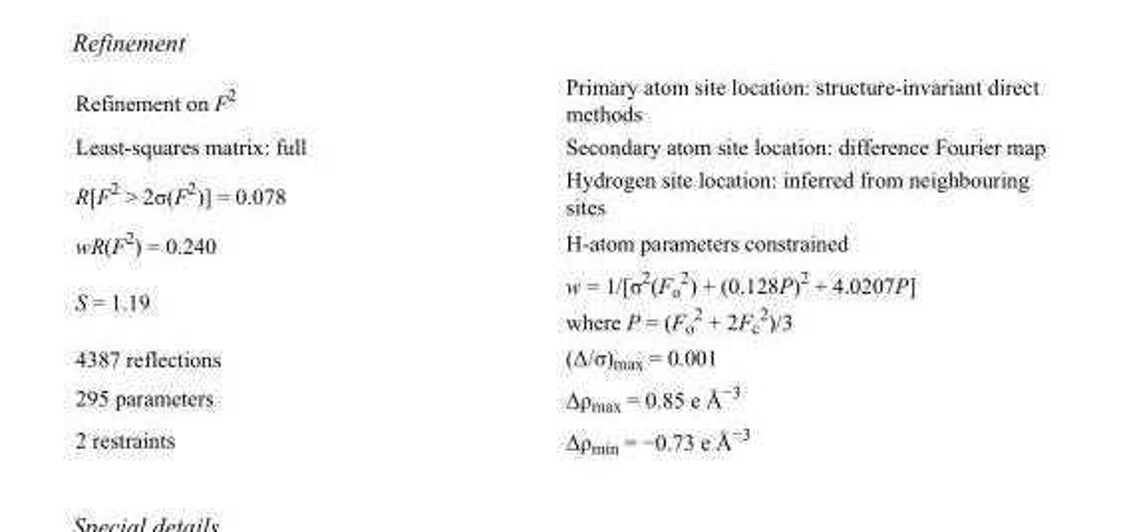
<table><tbody><tr><td>Refinement on F<sup>2</sup></td><td>Primary atom site location: structure-invariant direct methods</td></tr><tr><td>Least-squares matrix: full</td><td>Secondary atom site location: difference Fourier map</td></tr><tr><td>R[F<sup>2</sup> &gt; 2σ(F<sup>2</sup>)] = 0.078</td><td>Hydrogen site location: inferred from neighbouring sites</td></tr><tr><td>wR(F<sup>2</sup>) = 0.240</td><td>H-atom parameters constrained</td></tr><tr><td>S = 1.19</td><td>w = 1/[σ<sup>2</sup>(F<sub>o</sub> <sup>2</sup>) + (0.128P)<sup>2</sup> + 4.0207P] where P = (F<sub>o</sub> <sup>2</sup> + 2F<sub>c</sub> <sup>2</sup>)/3</td></tr><tr><td>4387 reflections</td><td>(Δ/σ)<sub>max</sub> = 0.001</td></tr><tr><td>295 parameters</td><td>Δρ<sub>max</sub> = 0.85 e Å<sup>−3</sup></td></tr><tr><td>2 restraints</td><td>Δρ<sub>min</sub> = −0.73 e Å<sup>−3</sup></td></tr></tbody></table>